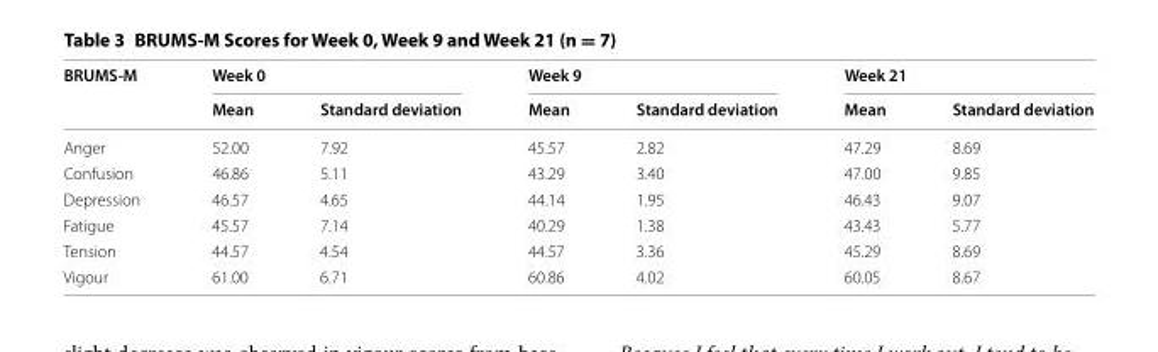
<table><thead><tr><td rowspan="2">BRUMS‑M</td><td colspan="2">Week 0</td><td colspan="2">Week 9</td><td colspan="2">Week 21</td></tr><tr><td>Mean</td><td>Standard deviation</td><td>Mean</td><td>Standard deviation</td><td>Mean</td><td>Standard deviation</td></tr></thead><tbody><tr><td>Anger</td><td>52.00</td><td>7.92</td><td>45.57</td><td>2.82</td><td>47.29</td><td>8.69</td></tr><tr><td>Confusion</td><td>46.86</td><td>5.11</td><td>43.29</td><td>3.40</td><td>47.00</td><td>9.85</td></tr><tr><td>Depression</td><td>46.57</td><td>4.65</td><td>44.14</td><td>1.95</td><td>46.43</td><td>9.07</td></tr><tr><td>Fatigue</td><td>45.57</td><td>7.14</td><td>40.29</td><td>1.38</td><td>43.43</td><td>5.77</td></tr><tr><td>Tension</td><td>44.57</td><td>4.54</td><td>44.57</td><td>3.36</td><td>45.29</td><td>8.69</td></tr><tr><td>Vigour</td><td>61.00</td><td>6.71</td><td>60.86</td><td>4.02</td><td>60.05</td><td>8.67</td></tr></tbody></table>